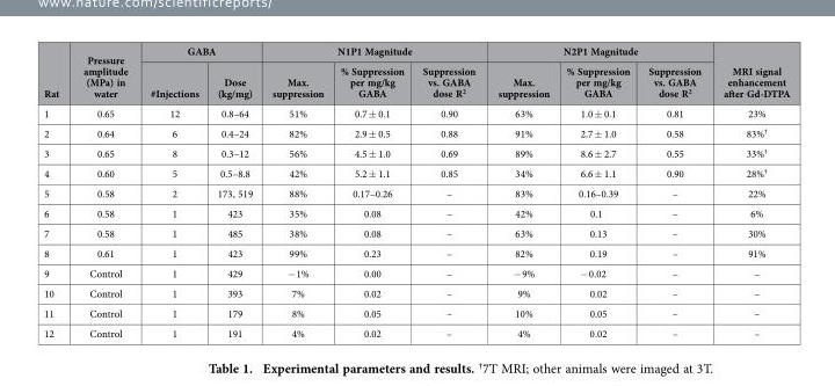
<table><thead><tr><td rowspan="2">Rat</td><td rowspan="2">Pressure amplitude (MPa) in water</td><td colspan="2">GABA</td><td colspan="3">N1P1 Magnitude</td><td colspan="3">N2P1 Magnitude</td><td rowspan="2">MRI signal enhancement after Gd-DTPA</td></tr><tr><td>#Injections</td><td>Dose (kg/mg)</td><td>Max. suppression</td><td>% Suppression per mg/kg GABA</td><td>Suppression vs. GABA dose R<sup>2</sup></td><td>Max. suppression</td><td>% Suppression per mg/kg GABA</td><td>Suppression vs. GABA dose R<sup>2</sup></td></tr></thead><tbody><tr><td>1</td><td>0.65</td><td>12</td><td>0.8–64</td><td>51%</td><td>0.7 ± 0.1</td><td>0.90</td><td>63%</td><td>1.0 ± 0.1</td><td>0.81</td><td>23%</td></tr><tr><td>2</td><td>0.64</td><td>6</td><td>0.4–24</td><td>82%</td><td>2.9 ± 0.5</td><td>0.88</td><td>91%</td><td>2.7 ± 1.0</td><td>0.58</td><td>83%†</td></tr><tr><td>3</td><td>0.65</td><td>8</td><td>0.3–12</td><td>56%</td><td>4.5 ± 1.0</td><td>0.69</td><td>89%</td><td>8.6 ± 2.7</td><td>0.55</td><td>33%†</td></tr><tr><td>4</td><td>0.60</td><td>5</td><td>0.5–8.8</td><td>42%</td><td>5.2 ± 1.1</td><td>0.85</td><td>34%</td><td>6.6 ± 1.1</td><td>0.90</td><td>28%†</td></tr><tr><td>5</td><td>0.58</td><td>2</td><td>173, 519</td><td>88%</td><td>0.17–0.26</td><td>–</td><td>83%</td><td>0.16–0.39</td><td>–</td><td>22%</td></tr><tr><td>6</td><td>0.58</td><td>1</td><td>423</td><td>35%</td><td>0.08</td><td>–</td><td>42%</td><td>0.1</td><td>–</td><td>6%</td></tr><tr><td>7</td><td>0.58</td><td>1</td><td>485</td><td>38%</td><td>0.08</td><td>–</td><td>63%</td><td>0.13</td><td>–</td><td>30%</td></tr><tr><td>8</td><td>0.61</td><td>1</td><td>423</td><td>99%</td><td>0.23</td><td>–</td><td>82%</td><td>0.19</td><td>–</td><td>91%</td></tr><tr><td>9</td><td>Control</td><td>1</td><td>429</td><td>− 1%</td><td>0.00</td><td>–</td><td>− 9%</td><td>− 0.02</td><td>–</td><td>–</td></tr><tr><td>10</td><td>Control</td><td>1</td><td>393</td><td>7%</td><td>0.02</td><td>–</td><td>9%</td><td>0.02</td><td>–</td><td>–</td></tr><tr><td>11</td><td>Control</td><td>1</td><td>179</td><td>8%</td><td>0.05</td><td>–</td><td>10%</td><td>0.05</td><td>–</td><td>–</td></tr><tr><td>12</td><td>Control</td><td>1</td><td>191</td><td>4%</td><td>0.02</td><td>–</td><td>4%</td><td>0.02</td><td>–</td><td>–</td></tr></tbody></table>